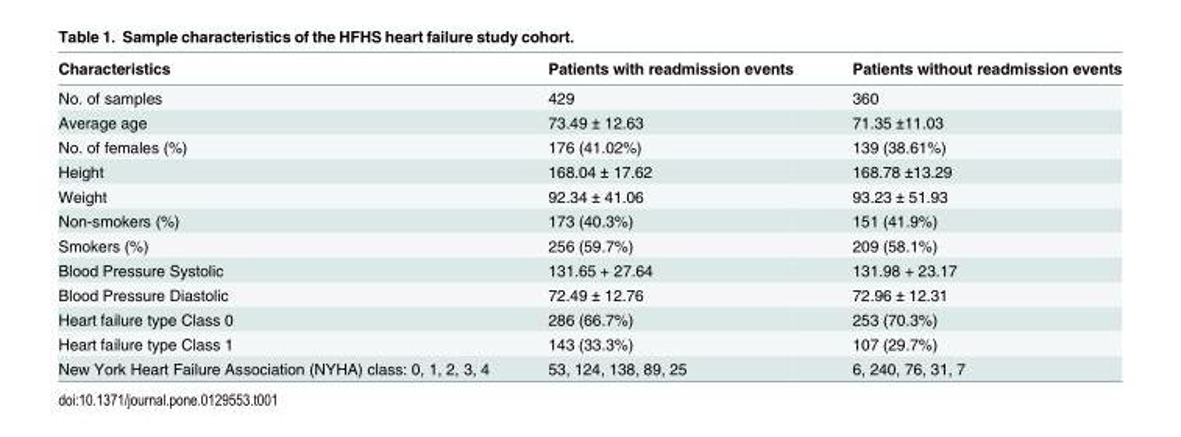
<table><thead><tr><td>Characteristics</td><td>Patients with readmission events</td><td>Patients without readmission events</td></tr></thead><tbody><tr><td>No. of samples</td><td>429</td><td>360</td></tr><tr><td>Average age</td><td>73.49 ± 12.63</td><td>71.35 ±11.03</td></tr><tr><td>No. of females (%)</td><td>176 (41.02%)</td><td>139 (38.61%)</td></tr><tr><td>Height</td><td>168.04 ± 17.62</td><td>168.78 ±13.29</td></tr><tr><td>Weight</td><td>92.34 ± 41.06</td><td>93.23 ± 51.93</td></tr><tr><td>Non-smokers (%)</td><td>173 (40.3%)</td><td>151 (41.9%)</td></tr><tr><td>Smokers (%)</td><td>256 (59.7%)</td><td>209 (58.1%)</td></tr><tr><td>Blood Pressure Systolic</td><td>131.65 + 27.64</td><td>131.98 + 23.17</td></tr><tr><td>Blood Pressure Diastolic</td><td>72.49 ± 12.76</td><td>72.96 ± 12.31</td></tr><tr><td>Heart failure type Class 0</td><td>286 (66.7%)</td><td>253 (70.3%)</td></tr><tr><td>Heart failure type Class 1</td><td>143 (33.3%)</td><td>107 (29.7%)</td></tr><tr><td>New York Heart Failure Association (NYHA) class: 0, 1, 2, 3, 4</td><td>53, 124, 138, 89, 25</td><td>6, 240, 76, 31, 7</td></tr></tbody></table>